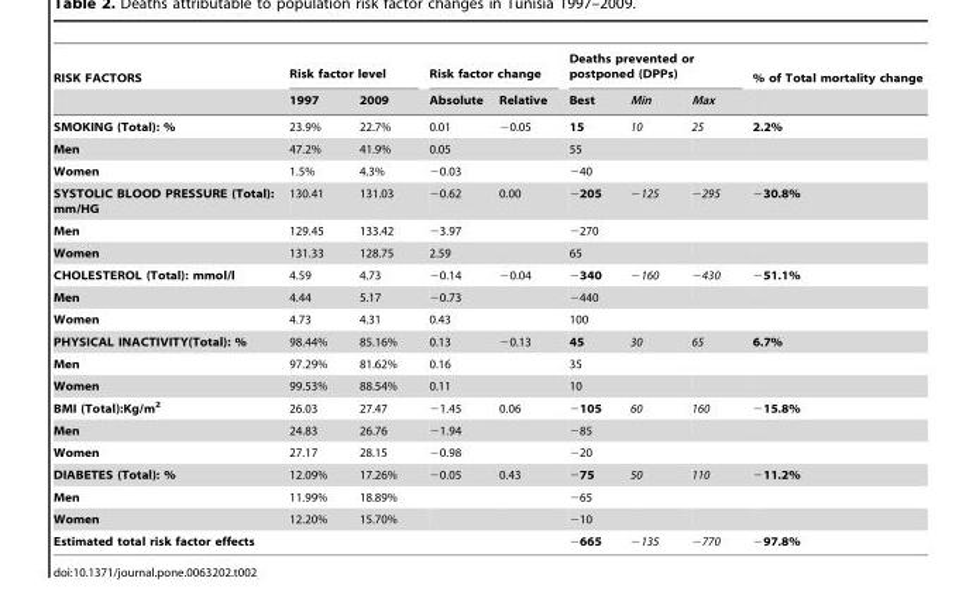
<table><thead><tr><td rowspan="2">RISK FACTORS</td><td colspan="2">Risk factor level</td><td colspan="2">Risk factor change</td><td colspan="3">Deaths prevented or postponed (DPPs)</td><td rowspan="2">% of Total mortality change</td></tr><tr><td>1997</td><td>2009</td><td>Absolute</td><td>Relative</td><td>Best</td><td>Min</td><td>Max</td></tr></thead><tbody><tr><td>SMOKING (Total): %</td><td>23.9%</td><td>22.7%</td><td>0.01</td><td>−0.05</td><td>15</td><td>10</td><td>25</td><td>2.2%</td></tr><tr><td>Men</td><td>47.2%</td><td>41.9%</td><td>0.05</td><td></td><td>55</td><td></td><td></td><td></td></tr><tr><td>Women</td><td>1.5%</td><td>4.3%</td><td>−0.03</td><td></td><td>−40</td><td></td><td></td><td></td></tr><tr><td>SYSTOLIC BLOOD PRESSURE (Total): mm/HG</td><td>130.41</td><td>131.03</td><td>−0.62</td><td>0.00</td><td>−205</td><td>−125</td><td>−295</td><td>−30.8%</td></tr><tr><td>Men</td><td>129.45</td><td>133.42</td><td>−3.97</td><td></td><td>−270</td><td></td><td></td><td></td></tr><tr><td>Women</td><td>131.33</td><td>128.75</td><td>2.59</td><td></td><td>65</td><td></td><td></td><td></td></tr><tr><td>CHOLESTEROL (Total): mmol/l</td><td>4.59</td><td>4.73</td><td>−0.14</td><td>−0.04</td><td>−340</td><td>−160</td><td>−430</td><td>−51.1%</td></tr><tr><td>Men</td><td>4.44</td><td>5.17</td><td>−0.73</td><td></td><td>−440</td><td></td><td></td><td></td></tr><tr><td>Women</td><td>4.73</td><td>4.31</td><td>0.43</td><td></td><td>100</td><td></td><td></td><td></td></tr><tr><td>PHYSICAL INACTIVITY(Total): %</td><td>98.44%</td><td>85.16%</td><td>0.13</td><td>−0.13</td><td>45</td><td>30</td><td>65</td><td>6.7%</td></tr><tr><td>Men</td><td>97.29%</td><td>81.62%</td><td>0.16</td><td></td><td>35</td><td></td><td></td><td></td></tr><tr><td>Women</td><td>99.53%</td><td>88.54%</td><td>0.11</td><td></td><td>10</td><td></td><td></td><td></td></tr><tr><td>BMI (Total):Kg/m<sup>2</sup></td><td>26.03</td><td>27.47</td><td>−1.45</td><td>0.06</td><td>−105</td><td>60</td><td>160</td><td>−15.8%</td></tr><tr><td>Men</td><td>24.83</td><td>26.76</td><td>−1.94</td><td></td><td>−85</td><td></td><td></td><td></td></tr><tr><td>Women</td><td>27.17</td><td>28.15</td><td>−0.98</td><td></td><td>−20</td><td></td><td></td><td></td></tr><tr><td>DIABETES (Total): %</td><td>12.09%</td><td>17.26%</td><td>−0.05</td><td>0.43</td><td>−75</td><td>50</td><td>110</td><td>−11.2%</td></tr><tr><td>Men</td><td>11.99%</td><td>18.89%</td><td></td><td></td><td>−65</td><td></td><td></td><td></td></tr><tr><td>Women</td><td>12.20%</td><td>15.70%</td><td></td><td></td><td>−10</td><td></td><td></td><td></td></tr><tr><td colspan="5">Estimated total risk factor effects</td><td>−665</td><td>−135</td><td>−770</td><td>−97.8%</td></tr></tbody></table>